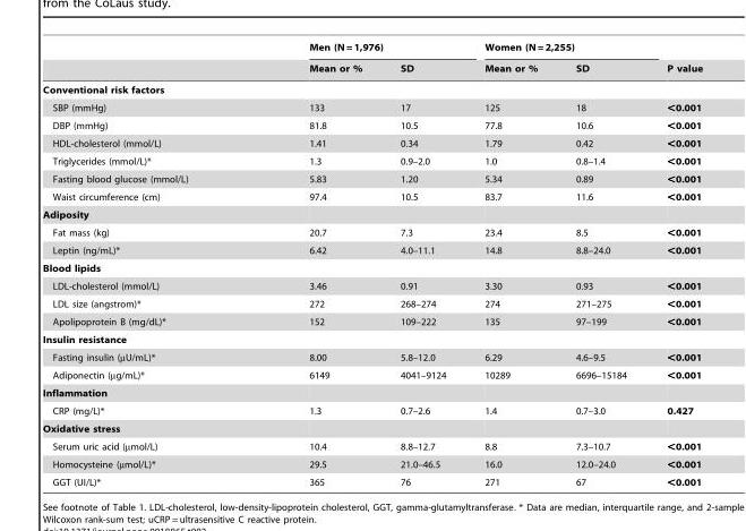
<table><thead><tr><td rowspan="2"></td><td colspan="2">Men (N = 1,976)</td><td colspan="2">Women (N = 2,255)</td><td rowspan="2">P value</td></tr><tr><td>Mean or %</td><td>SD</td><td>Mean or %</td><td>SD</td></tr></thead><tbody><tr><td colspan="6">Conventional risk factors</td></tr><tr><td>SBP (mmHg)</td><td>133</td><td>17</td><td>125</td><td>18</td><td>&lt;0.001</td></tr><tr><td>DBP (mmHg)</td><td>81.8</td><td>10.5</td><td>77.8</td><td>10.6</td><td>&lt;0.001</td></tr><tr><td>HDL-cholesterol (mmol/L)</td><td>1.41</td><td>0.34</td><td>1.79</td><td>0.42</td><td>&lt;0.001</td></tr><tr><td>Triglycerides (mmol/L)*</td><td>1.3</td><td>0.9–2.0</td><td>1.0</td><td>0.8–1.4</td><td>&lt;0.001</td></tr><tr><td>Fasting blood glucose (mmol/L)</td><td>5.83</td><td>1.20</td><td>5.34</td><td>0.89</td><td>&lt;0.001</td></tr><tr><td>Waist circumference (cm)</td><td>97.4</td><td>10.5</td><td>83.7</td><td>11.6</td><td>&lt;0.001</td></tr><tr><td colspan="6">Adiposity</td></tr><tr><td>Fat mass (kg)</td><td>20.7</td><td>7.3</td><td>23.4</td><td>8.5</td><td>&lt;0.001</td></tr><tr><td>Leptin (ng/mL)*</td><td>6.42</td><td>4.0–11.1</td><td>14.8</td><td>8.8–24.0</td><td>&lt;0.001</td></tr><tr><td colspan="6">Blood lipids</td></tr><tr><td>LDL-cholesterol (mmol/L)</td><td>3.46</td><td>0.91</td><td>3.30</td><td>0.93</td><td>&lt;0.001</td></tr><tr><td>LDL size (angstrom)*</td><td>272</td><td>268–274</td><td>274</td><td>271–275</td><td>&lt;0.001</td></tr><tr><td>Apolipoprotein B (mg/dL)*</td><td>152</td><td>109–222</td><td>135</td><td>97–199</td><td>&lt;0.001</td></tr><tr><td colspan="6">Insulin resistance</td></tr><tr><td>Fasting insulin (µU/mL)*</td><td>8.00</td><td>5.8–12.0</td><td>6.29</td><td>4.6–9.5</td><td>&lt;0.001</td></tr><tr><td>Adiponectin (µg/mL)*</td><td>6149</td><td>4041–9124</td><td>10289</td><td>6696–15184</td><td>&lt;0.001</td></tr><tr><td colspan="6">Inflammation</td></tr><tr><td>CRP (mg/L)*</td><td>1.3</td><td>0.7–2.6</td><td>1.4</td><td>0.7–3.0</td><td>0.427</td></tr><tr><td colspan="6">Oxidative stress</td></tr><tr><td>Serum uric acid (µmol/L)</td><td>10.4</td><td>8.8–12.7</td><td>8.8</td><td>7.3–10.7</td><td>&lt;0.001</td></tr><tr><td>Homocysteine (µmol/L)*</td><td>29.5</td><td>21.0–46.5</td><td>16.0</td><td>12.0–24.0</td><td>&lt;0.001</td></tr><tr><td>GGT (UI/L)*</td><td>365</td><td>76</td><td>271</td><td>67</td><td>&lt;0.001</td></tr></tbody></table>